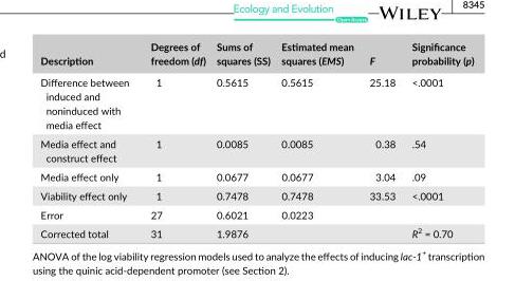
<table><thead><tr><td>Description</td><td>Degrees of freedom (df)</td><td>Sums of squares (SS)</td><td>Estimated mean squares (EMS)</td><td>F</td><td>Significance probability (p)</td></tr></thead><tbody><tr><td>Difference between induced and noninduced with media effect</td><td>1</td><td>0.5615</td><td>0.5615</td><td>25.18</td><td>&lt;.0001</td></tr><tr><td>Media effect and construct effect</td><td>1</td><td>0.0085</td><td>0.0085</td><td>0.38</td><td>.54</td></tr><tr><td>Media effect only</td><td>1</td><td>0.0677</td><td>0.0677</td><td>3.04</td><td>.09</td></tr><tr><td>Viability effect only</td><td>1</td><td>0.7478</td><td>0.7478</td><td>33.53</td><td>&lt;.0001</td></tr><tr><td>Error</td><td>27</td><td>0.6021</td><td>0.0223</td><td></td><td></td></tr><tr><td>Corrected total</td><td>31</td><td>1.9876</td><td></td><td></td><td>R<sup>2</sup> = 0.70</td></tr></tbody></table>